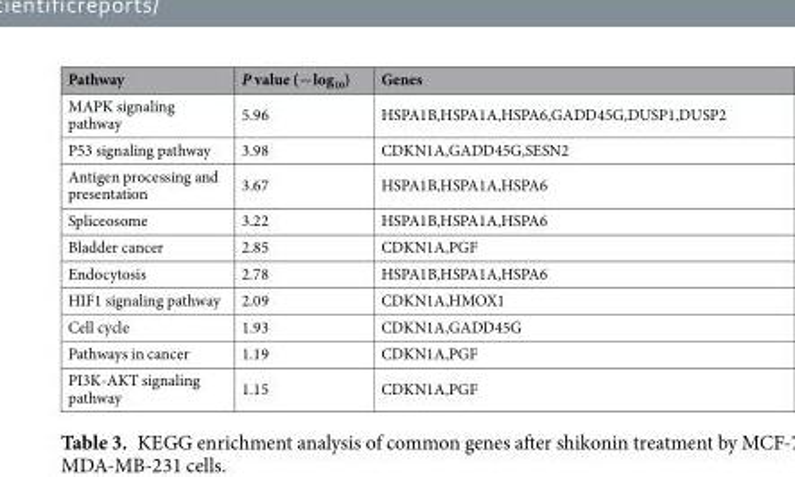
<table><thead><tr><td>Pathway</td><td>P value (−log<sub>10</sub>)</td><td>Genes</td></tr></thead><tbody><tr><td>MAPK signaling pathway</td><td>5.96</td><td>HSPA1B,HSPA1A,HSPA6,GADD45G,DUSP1,DUSP2</td></tr><tr><td>P53 signaling pathway</td><td>3.98</td><td>CDKN1A,GADD45G,SESN2</td></tr><tr><td>Antigen processing and presentation</td><td>3.67</td><td>HSPA1B,HSPA1A,HSPA6</td></tr><tr><td>Spliceosome</td><td>3.22</td><td>HSPA1B,HSPA1A,HSPA6</td></tr><tr><td>Bladder cancer</td><td>2.85</td><td>CDKN1A,PGF</td></tr><tr><td>Endocytosis</td><td>2.78</td><td>HSPA1B,HSPA1A,HSPA6</td></tr><tr><td>HIF1 signaling pathway</td><td>2.09</td><td>CDKN1A,HMOX1</td></tr><tr><td>Cell cycle</td><td>1.93</td><td>CDKN1A,GADD45G</td></tr><tr><td>Pathways in cancer</td><td>1.19</td><td>CDKN1A,PGF</td></tr><tr><td>PI3K-AKT signaling pathway</td><td>1.15</td><td>CDKN1A,PGF</td></tr></tbody></table>